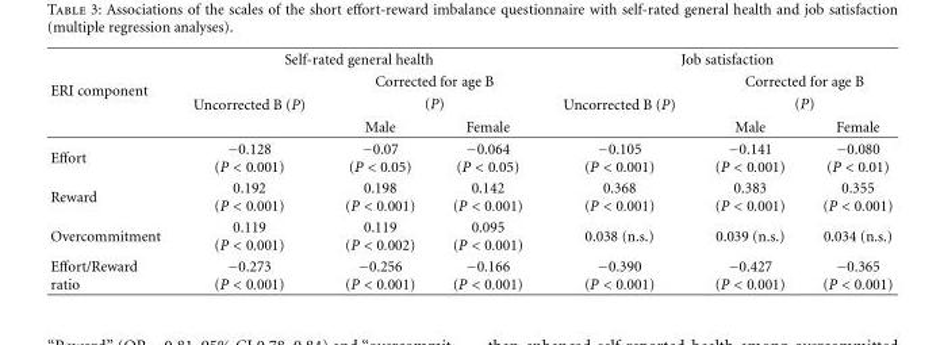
<table><thead><tr><td rowspan="4">ERI component</td><td colspan="3">Self-rated general health</td><td colspan="3">Job satisfaction</td></tr><tr><td rowspan="3">Uncorrected B (P)</td><td rowspan="2" colspan="2">Corrected for age B (P)</td><td rowspan="3">Uncorrected B (P)</td><td rowspan="2" colspan="2">Corrected for age B (P)</td></tr><tr></tr><tr><td>Male</td><td>Female</td><td>Male</td><td>Female</td></tr></thead><tbody><tr><td>Effort</td><td>−0.128 (P &lt; 0.001)</td><td>−0.07 (P &lt; 0.05)</td><td>−0.064 (P &lt; 0.05)</td><td>−0.105 (P &lt; 0.001)</td><td>−0.141 (P &lt; 0.001)</td><td>−0.080 (P &lt; 0.01)</td></tr><tr><td>Reward</td><td>0.192 (P &lt; 0.001)</td><td>0.198 (P &lt; 0.001)</td><td>0.142 (P &lt; 0.001)</td><td>0.368 (P &lt; 0.001)</td><td>0.383 (P &lt; 0.001)</td><td>0.355 (P &lt; 0.001)</td></tr><tr><td>Overcommitment</td><td>0.119 (P &lt; 0.001)</td><td>0.119 (P &lt; 0.002)</td><td>0.095 (P &lt; 0.001)</td><td>0.038 (n.s.)</td><td>0.039 (n.s.)</td><td>0.034 (n.s.)</td></tr><tr><td>Effort/Reward ratio</td><td>−0.273 (P &lt; 0.001)</td><td>−0.256 (P &lt; 0.001)</td><td>−0.166 (P &lt; 0.001)</td><td>−0.390 (P &lt; 0.001)</td><td>−0.427 (P &lt; 0.001)</td><td>−0.365 (P &lt; 0.001)</td></tr></tbody></table>